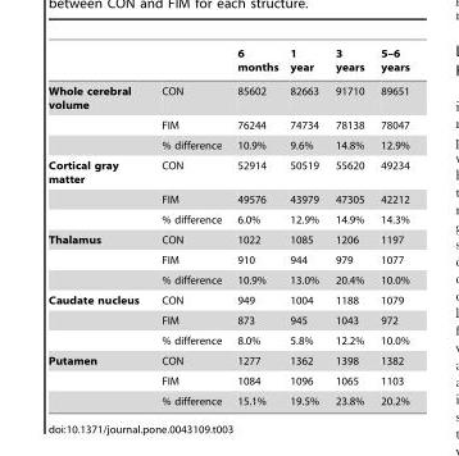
<table><thead><tr><td></td><td></td><td>6 months</td><td>1 year</td><td>3 years</td><td>5–6 years</td></tr></thead><tbody><tr><td rowspan="3">Whole cerebral volume</td><td>CON</td><td>85602</td><td>82663</td><td>91710</td><td>89651</td></tr><tr><td>FIM</td><td>76244</td><td>74734</td><td>78138</td><td>78047</td></tr><tr><td>% difference</td><td>10.9%</td><td>9.6%</td><td>14.8%</td><td>12.9%</td></tr><tr><td rowspan="3">Cortical gray matter</td><td>CON</td><td>52914</td><td>50519</td><td>55620</td><td>49234</td></tr><tr><td>FIM</td><td>49576</td><td>43979</td><td>47305</td><td>42212</td></tr><tr><td>% difference</td><td>6.0%</td><td>12.9%</td><td>14.9%</td><td>14.3%</td></tr><tr><td rowspan="3">Thalamus</td><td>CON</td><td>1022</td><td>1085</td><td>1206</td><td>1197</td></tr><tr><td>FIM</td><td>910</td><td>944</td><td>979</td><td>1077</td></tr><tr><td>% difference</td><td>10.9%</td><td>13.0%</td><td>20.4%</td><td>10.0%</td></tr><tr><td rowspan="3">Caudate nucleus</td><td>CON</td><td>949</td><td>1004</td><td>1188</td><td>1079</td></tr><tr><td>FIM</td><td>873</td><td>945</td><td>1043</td><td>972</td></tr><tr><td>% difference</td><td>8.0%</td><td>5.8%</td><td>12.2%</td><td>10.0%</td></tr><tr><td rowspan="3">Putamen</td><td>CON</td><td>1277</td><td>1362</td><td>1398</td><td>1382</td></tr><tr><td>FIM</td><td>1084</td><td>1096</td><td>1065</td><td>1103</td></tr><tr><td>% difference</td><td>15.1%</td><td>19.5%</td><td>23.8%</td><td>20.2%</td></tr></tbody></table>